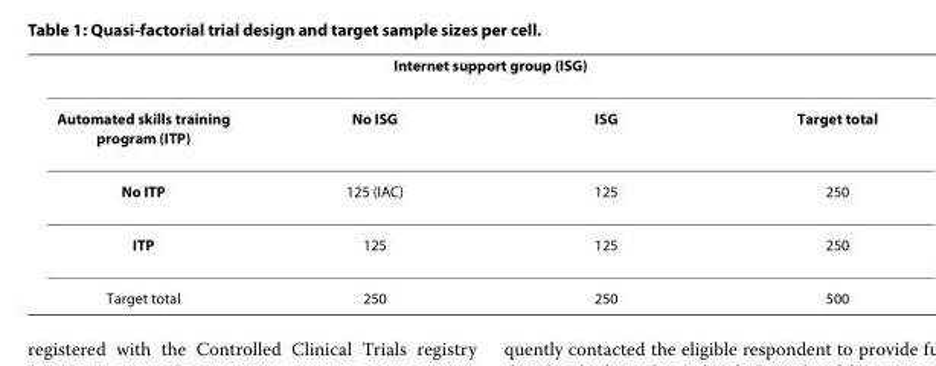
<table><thead><tr><td rowspan="2">Automated skills training program (ITP)</td><td colspan="2">Internet support group (ISG)</td><td rowspan="2">Target total</td></tr><tr><td>No ISG</td><td>ISG</td></tr></thead><tbody><tr><td>No ITP</td><td>125 (IAC)</td><td>125</td><td>250</td></tr><tr><td>ITP</td><td>125</td><td>125</td><td>250</td></tr><tr><td>Target total</td><td>250</td><td>250</td><td>500</td></tr></tbody></table>